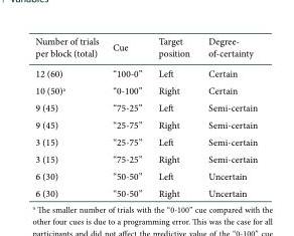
<table><thead><tr><td>Number of trials per block (total)</td><td>Cue</td><td>Target position</td><td>Degree- of-certainty</td></tr></thead><tbody><tr><td>12 (60)</td><td>“100-0”</td><td>Left</td><td>Certain</td></tr><tr><td>10 (50)<sup>a</sup></td><td>“0-100”</td><td>Right</td><td>Certain</td></tr><tr><td>9 (45)</td><td>“75-25”</td><td>Left</td><td>Semi-certain</td></tr><tr><td>9 (45)</td><td>“25-75”</td><td>Right</td><td>Semi-certain</td></tr><tr><td>3 (15)</td><td>“25-75”</td><td>Left</td><td>Semi-certain</td></tr><tr><td>3 (15)</td><td>“75-25”</td><td>Right</td><td>Semi-certain</td></tr><tr><td>6 (30)</td><td>“50-50”</td><td>Left</td><td>Uncertain</td></tr><tr><td>6 (30)</td><td>“50-50”</td><td>Right</td><td>Uncertain</td></tr></tbody></table>